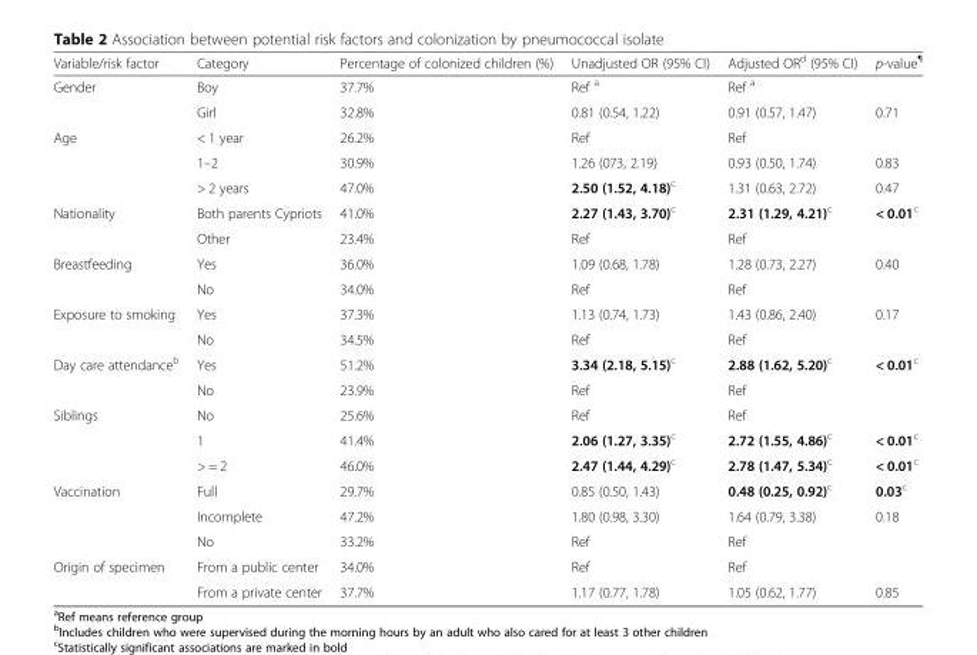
<table><thead><tr><td>Variable/risk factor</td><td>Category</td><td>Percentage of colonized children (%)</td><td>Unadjusted OR (95% CI)</td><td>Adjusted OR<sup>d</sup> (95% CI)</td><td>p-value<sup>¶</sup></td></tr></thead><tbody><tr><td rowspan="2">Gender</td><td>Boy</td><td>37.7%</td><td>Ref <sup>a</sup></td><td>Ref <sup>a</sup></td><td></td></tr><tr><td>Girl</td><td>32.8%</td><td>0.81 (0.54, 1.22)</td><td>0.91 (0.57, 1.47)</td><td>0.71</td></tr><tr><td rowspan="3">Age</td><td>&lt; 1 year</td><td>26.2%</td><td>Ref</td><td>Ref</td><td></td></tr><tr><td>1–2</td><td>30.9%</td><td>1.26 (073, 2.19)</td><td>0.93 (0.50, 1.74)</td><td>0.83</td></tr><tr><td>&gt; 2 years</td><td>47.0%</td><td>2.50 (1.52, 4.18)<sup>c</sup></td><td>1.31 (0.63, 2.72)</td><td>0.47</td></tr><tr><td rowspan="2">Nationality</td><td>Both parents Cypriots</td><td>41.0%</td><td>2.27 (1.43, 3.70)<sup>c</sup></td><td>2.31 (1.29, 4.21)<sup>c</sup></td><td>&lt; 0.01<sup>c</sup></td></tr><tr><td>Other</td><td>23.4%</td><td>Ref</td><td>Ref</td><td></td></tr><tr><td rowspan="2">Breastfeeding</td><td>Yes</td><td>36.0%</td><td>1.09 (0.68, 1.78)</td><td>1.28 (0.73, 2.27)</td><td>0.40</td></tr><tr><td>No</td><td>34.0%</td><td>Ref</td><td>Ref</td><td></td></tr><tr><td rowspan="2">Exposure to smoking</td><td>Yes</td><td>37.3%</td><td>1.13 (0.74, 1.73)</td><td>1.43 (0.86, 2.40)</td><td>0.17</td></tr><tr><td>No</td><td>34.5%</td><td>Ref</td><td>Ref</td><td></td></tr><tr><td rowspan="2">Day care attendance<sup>b</sup></td><td>Yes</td><td>51.2%</td><td>3.34 (2.18, 5.15)<sup>c</sup></td><td>2.88 (1.62, 5.20)<sup>c</sup></td><td>&lt; 0.01<sup>c</sup></td></tr><tr><td>No</td><td>23.9%</td><td>Ref</td><td>Ref</td><td></td></tr><tr><td rowspan="3">Siblings</td><td>No</td><td>25.6%</td><td>Ref</td><td>Ref</td><td></td></tr><tr><td>1</td><td>41.4%</td><td>2.06 (1.27, 3.35)<sup>c</sup></td><td>2.72 (1.55, 4.86)<sup>c</sup></td><td>&lt; 0.01<sup>c</sup></td></tr><tr><td>&gt; = 2</td><td>46.0%</td><td>2.47 (1.44, 4.29)<sup>c</sup></td><td>2.78 (1.47, 5.34)<sup>c</sup></td><td>&lt; 0.01<sup>c</sup></td></tr><tr><td rowspan="3">Vaccination</td><td>Full</td><td>29.7%</td><td>0.85 (0.50, 1.43)</td><td>0.48 (0.25, 0.92)<sup>c</sup></td><td>0.03<sup>c</sup></td></tr><tr><td>Incomplete</td><td>47.2%</td><td>1.80 (0.98, 3.30)</td><td>1.64 (0.79, 3.38)</td><td>0.18</td></tr><tr><td>No</td><td>33.2%</td><td>Ref</td><td>Ref</td><td></td></tr><tr><td rowspan="2">Origin of specimen</td><td>From a public center</td><td>34.0%</td><td>Ref</td><td>Ref</td><td></td></tr><tr><td>From a private center</td><td>37.7%</td><td>1.17 (0.77, 1.78)</td><td>1.05 (0.62, 1.77)</td><td>0.85</td></tr></tbody></table>